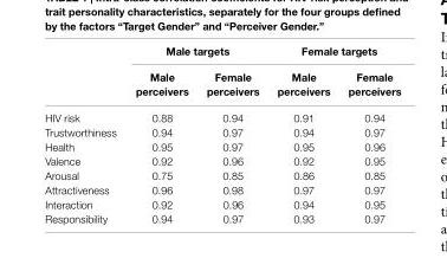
<table><thead><tr><td rowspan="2"></td><td colspan="2">Male targets</td><td colspan="2">Female targets</td></tr><tr><td>Male perceivers</td><td>Female perceivers</td><td>Male perceivers</td><td>Female perceivers</td></tr></thead><tbody><tr><td>HIV risk</td><td>0.88</td><td>0.94</td><td>0.91</td><td>0.94</td></tr><tr><td>Trustworthiness</td><td>0.94</td><td>0.97</td><td>0.94</td><td>0.97</td></tr><tr><td>Health</td><td>0.95</td><td>0.97</td><td>0.95</td><td>0.96</td></tr><tr><td>Valence</td><td>0.92</td><td>0.96</td><td>0.92</td><td>0.95</td></tr><tr><td>Arousal</td><td>0.75</td><td>0.85</td><td>0.86</td><td>0.85</td></tr><tr><td>Attractiveness</td><td>0.96</td><td>0.98</td><td>0.97</td><td>0.97</td></tr><tr><td>Interaction</td><td>0.92</td><td>0.96</td><td>0.94</td><td>0.95</td></tr><tr><td>Responsibility</td><td>0.94</td><td>0.97</td><td>0.93</td><td>0.97</td></tr></tbody></table>